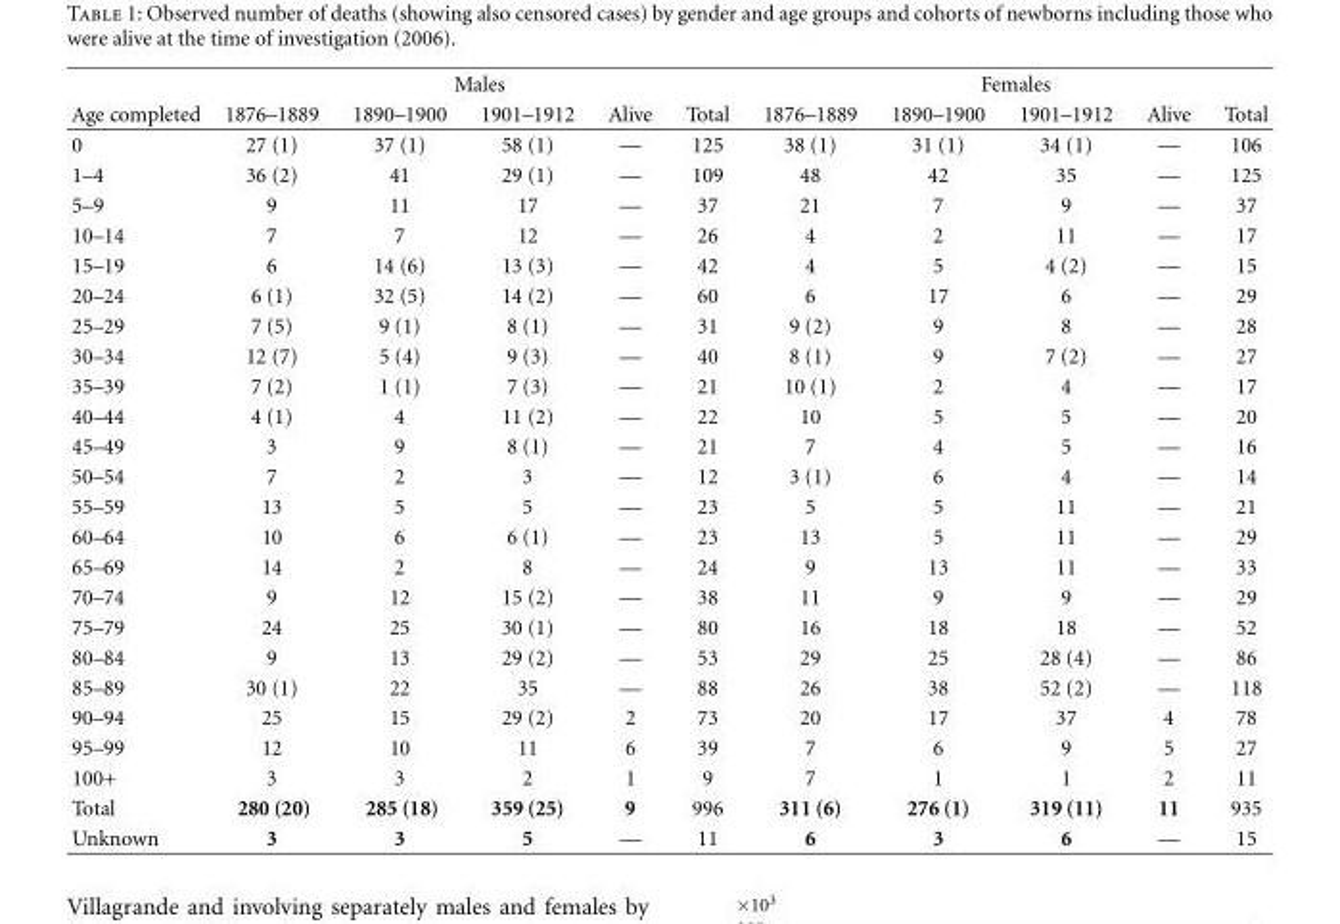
<table><thead><tr><td rowspan="2">Age completed</td><td colspan="5">Males</td><td colspan="5">Females</td></tr><tr><td>1876–1889</td><td>1890–1900</td><td>1901–1912</td><td>Alive</td><td>Total</td><td>1876–1889</td><td>1890–1900</td><td>1901–1912</td><td>Alive</td><td>Total</td></tr></thead><tbody><tr><td>0</td><td>27 (1)</td><td>37 (1)</td><td>58 (1)</td><td>—</td><td>125</td><td>38 (1)</td><td>31 (1)</td><td>34 (1)</td><td>—</td><td>106</td></tr><tr><td>1–4</td><td>36 (2)</td><td>41</td><td>29 (1)</td><td>—</td><td>109</td><td>48</td><td>42</td><td>35</td><td>—</td><td>125</td></tr><tr><td>5–9</td><td>9</td><td>11</td><td>17</td><td>—</td><td>37</td><td>21</td><td>7</td><td>9</td><td>—</td><td>37</td></tr><tr><td>10–14</td><td>7</td><td>7</td><td>12</td><td>—</td><td>26</td><td>4</td><td>2</td><td>11</td><td>—</td><td>17</td></tr><tr><td>15–19</td><td>6</td><td>14 (6)</td><td>13 (3)</td><td>—</td><td>42</td><td>4</td><td>5</td><td>4 (2)</td><td>—</td><td>15</td></tr><tr><td>20–24</td><td>6 (1)</td><td>32 (5)</td><td>14 (2)</td><td>—</td><td>60</td><td>6</td><td>17</td><td>6</td><td>—</td><td>29</td></tr><tr><td>25–29</td><td>7 (5)</td><td>9 (1)</td><td>8 (1)</td><td>—</td><td>31</td><td>9 (2)</td><td>9</td><td>8</td><td>—</td><td>28</td></tr><tr><td>30–34</td><td>12 (7)</td><td>5 (4)</td><td>9 (3)</td><td>—</td><td>40</td><td>8 (1)</td><td>9</td><td>7 (2)</td><td>—</td><td>27</td></tr><tr><td>35–39</td><td>7 (2)</td><td>1 (1)</td><td>7 (3)</td><td>—</td><td>21</td><td>10 (1)</td><td>2</td><td>4</td><td>—</td><td>17</td></tr><tr><td>40–44</td><td>4 (1)</td><td>4</td><td>11 (2)</td><td>—</td><td>22</td><td>10</td><td>5</td><td>5</td><td>—</td><td>20</td></tr><tr><td>45–49</td><td>3</td><td>9</td><td>8 (1)</td><td>—</td><td>21</td><td>7</td><td>4</td><td>5</td><td>—</td><td>16</td></tr><tr><td>50–54</td><td>7</td><td>2</td><td>3</td><td>—</td><td>12</td><td>3 (1)</td><td>6</td><td>4</td><td>—</td><td>14</td></tr><tr><td>55–59</td><td>13</td><td>5</td><td>5</td><td>—</td><td>23</td><td>5</td><td>5</td><td>11</td><td>—</td><td>21</td></tr><tr><td>60–64</td><td>10</td><td>6</td><td>6 (1)</td><td>—</td><td>23</td><td>13</td><td>5</td><td>11</td><td>—</td><td>29</td></tr><tr><td>65–69</td><td>14</td><td>2</td><td>8</td><td>—</td><td>24</td><td>9</td><td>13</td><td>11</td><td>—</td><td>33</td></tr><tr><td>70–74</td><td>9</td><td>12</td><td>15 (2)</td><td>—</td><td>38</td><td>11</td><td>9</td><td>9</td><td>—</td><td>29</td></tr><tr><td>75–79</td><td>24</td><td>25</td><td>30 (1)</td><td>—</td><td>80</td><td>16</td><td>18</td><td>18</td><td>—</td><td>52</td></tr><tr><td>80–84</td><td>9</td><td>13</td><td>29 (2)</td><td>—</td><td>53</td><td>29</td><td>25</td><td>28 (4)</td><td>—</td><td>86</td></tr><tr><td>85–89</td><td>30 (1)</td><td>22</td><td>35</td><td>—</td><td>88</td><td>26</td><td>38</td><td>52 (2)</td><td>—</td><td>118</td></tr><tr><td>90–94</td><td>25</td><td>15</td><td>29 (2)</td><td>2</td><td>73</td><td>20</td><td>17</td><td>37</td><td>4</td><td>78</td></tr><tr><td>95–99</td><td>12</td><td>10</td><td>11</td><td>6</td><td>39</td><td>7</td><td>6</td><td>9</td><td>5</td><td>27</td></tr><tr><td>100+</td><td>3</td><td>3</td><td>2</td><td>1</td><td>9</td><td>7</td><td>1</td><td>1</td><td>2</td><td>11</td></tr><tr><td>Total</td><td>280 (20)</td><td>285 (18)</td><td>359 (25)</td><td>9</td><td>996</td><td>311 (6)</td><td>276 (1)</td><td>319 (11)</td><td>11</td><td>935</td></tr><tr><td>Unknown</td><td>3</td><td>3</td><td>5</td><td>—</td><td>11</td><td>6</td><td>3</td><td>6</td><td>—</td><td>15</td></tr></tbody></table>